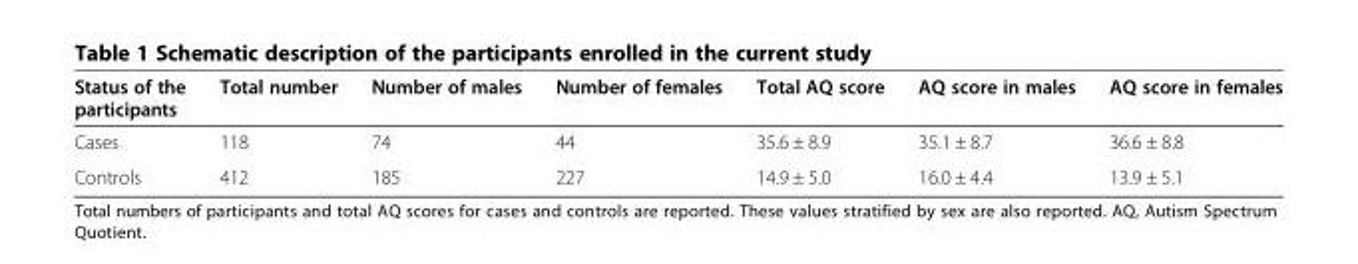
<table><thead><tr><td>Status of the participants</td><td>Total number</td><td>Number of males</td><td>Number of females</td><td>Total AQ score</td><td>AQ score in males</td><td>AQ score in females</td></tr></thead><tbody><tr><td>Cases</td><td>118</td><td>74</td><td>44</td><td>35.6 ± 8.9</td><td>35.1 ± 8.7</td><td>36.6 ± 8.8</td></tr><tr><td>Controls</td><td>412</td><td>185</td><td>227</td><td>14.9 ± 5.0</td><td>16.0 ± 4.4</td><td>13.9 ± 5.1</td></tr></tbody></table>